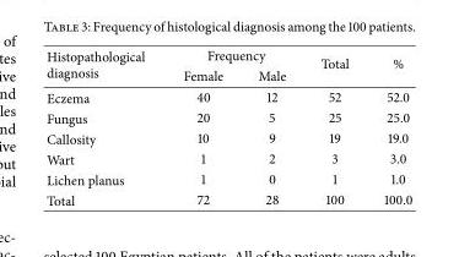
<table><thead><tr><td rowspan="2">Histopathological diagnosis</td><td colspan="2">Frequency</td><td rowspan="2">Total</td><td rowspan="2">%</td></tr><tr><td>Female</td><td>Male</td></tr></thead><tbody><tr><td>Eczema</td><td>40</td><td>12</td><td>52</td><td>52.0</td></tr><tr><td>Fungus</td><td>20</td><td>5</td><td>25</td><td>25.0</td></tr><tr><td>Callosity</td><td>10</td><td>9</td><td>19</td><td>19.0</td></tr><tr><td>Wart</td><td>1</td><td>2</td><td>3</td><td>3.0</td></tr><tr><td>Lichen planus</td><td>1</td><td>0</td><td>1</td><td>1.0</td></tr><tr><td>Total</td><td>72</td><td>28</td><td>100</td><td>100.0</td></tr></tbody></table>